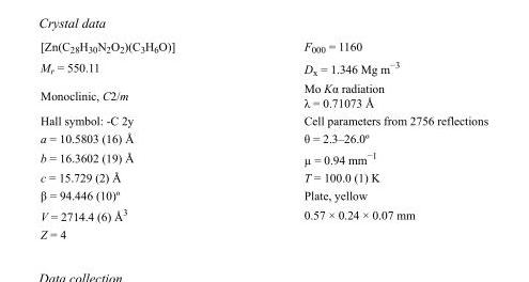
<table><tbody><tr><td>[Zn(C<sub>28</sub>H<sub>30</sub>N<sub>2</sub>O<sub>2</sub>)(C<sub>3</sub>H<sub>6</sub>O)]</td><td>F<sub>000</sub> = 1160</td></tr><tr><td>M<sub>r</sub> = 550.11</td><td>D<sub>x</sub> = 1.346 Mg m<sup>−3</sup></td></tr><tr><td>Monoclinic, C2/m</td><td>Mo Kα radiation λ = 0.71073 Å</td></tr><tr><td>Hall symbol: -C 2y</td><td>Cell parameters from 2756 reflections</td></tr><tr><td>a = 10.5803 (16) Å</td><td>θ = 2.3–26.0º</td></tr><tr><td>b = 16.3602 (19) Å</td><td>µ = 0.94 mm<sup>−1</sup></td></tr><tr><td>c = 15.729 (2) Å</td><td>T = 100.0 (1) K</td></tr><tr><td>β = 94.446 (10)º</td><td>Plate, yellow</td></tr><tr><td>V = 2714.4 (6) Å<sup>3</sup></td><td>0.57 × 0.24 × 0.07 mm</td></tr><tr><td>Z = 4</td><td></td></tr></tbody></table>